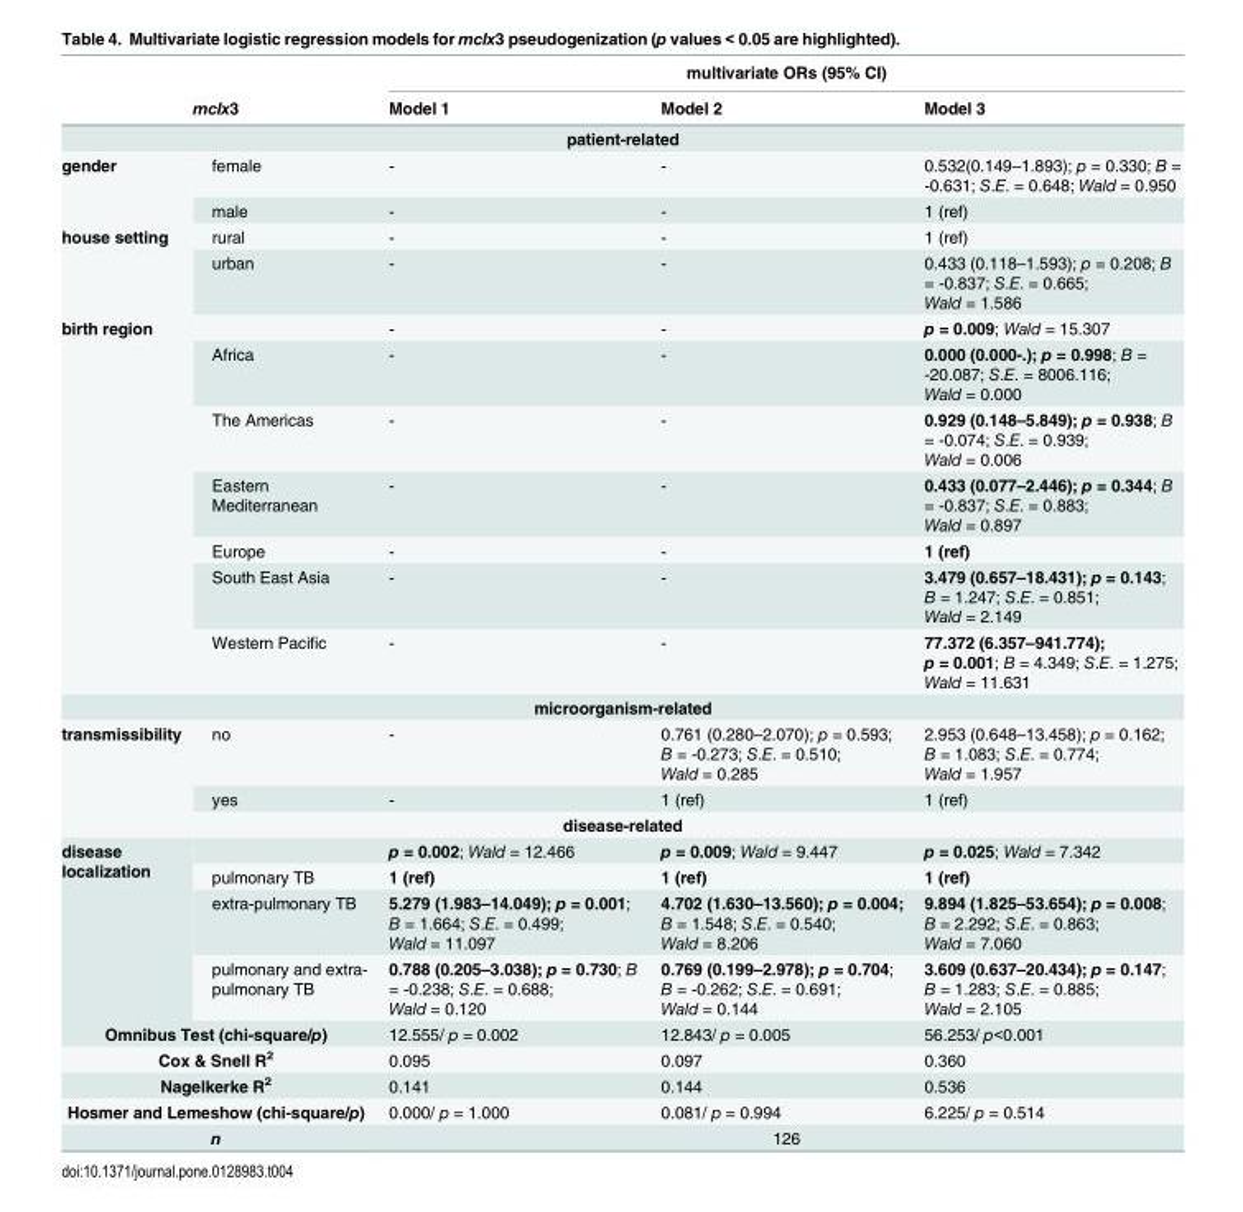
<table><thead><tr><td></td><td></td><td colspan="3">multivariate ORs (95% CI)</td></tr><tr><td colspan="2">mclx3</td><td>Model 1</td><td>Model 2</td><td>Model 3</td></tr></thead><tbody><tr><td colspan="5">patient-related</td></tr><tr><td rowspan="2">gender</td><td>female</td><td>-</td><td>-</td><td>0.532(0.149–1.893); p = 0.330; B = -0.631; S.E. = 0.648; Wald = 0.950</td></tr><tr><td>male</td><td>-</td><td>-</td><td>1 (ref)</td></tr><tr><td rowspan="2">house setting</td><td>rural</td><td>-</td><td>-</td><td>1 (ref)</td></tr><tr><td>urban</td><td>-</td><td>-</td><td>0.433 (0.118–1.593); p = 0.208; B = -0.837; S.E. = 0.665; Wald = 1.586</td></tr><tr><td rowspan="7">birth region</td><td></td><td>-</td><td>-</td><td>p = 0.009; Wald = 15.307</td></tr><tr><td>Africa</td><td>-</td><td>-</td><td>0.000 (0.000-.); p = 0.998; B = -20.087; S.E. = 8006.116; Wald = 0.000</td></tr><tr><td>The Americas</td><td>-</td><td>-</td><td>0.929 (0.148–5.849); p = 0.938; B = -0.074; S.E. = 0.939; Wald = 0.006</td></tr><tr><td>Eastern Mediterranean</td><td>-</td><td>-</td><td>0.433 (0.077–2.446); p = 0.344; B = -0.837; S.E. = 0.883; Wald = 0.897</td></tr><tr><td>Europe</td><td>-</td><td>-</td><td>1 (ref)</td></tr><tr><td>South East Asia</td><td>-</td><td>-</td><td>3.479 (0.657–18.431); p = 0.143; B = 1.247; S.E. = 0.851; Wald = 2.149</td></tr><tr><td>Western Pacific</td><td>-</td><td>-</td><td>77.372 (6.357–941.774); p = 0.001; B = 4.349; S.E. = 1.275; Wald = 11.631</td></tr><tr><td colspan="5">microorganism-related</td></tr><tr><td rowspan="2">transmissibility</td><td>no</td><td>-</td><td>0.761 (0.280–2.070); p = 0.593; B = -0.273; S.E. = 0.510; Wald = 0.285</td><td>2.953 (0.648–13.458); p = 0.162; B = 1.083; S.E. = 0.774; Wald = 1.957</td></tr><tr><td>yes</td><td>-</td><td>1 (ref)</td><td>1 (ref)</td></tr><tr><td colspan="5">disease-related</td></tr><tr><td rowspan="4">disease localization</td><td></td><td>p = 0.002; Wald = 12.466</td><td>p = 0.009; Wald = 9.447</td><td>p = 0.025; Wald = 7.342</td></tr><tr><td>pulmonary TB</td><td>1 (ref)</td><td>1 (ref)</td><td>1 (ref)</td></tr><tr><td>extra-pulmonary TB</td><td>5.279 (1.983–14.049); p = 0.001; B = 1.664; S.E. = 0.499; Wald = 11.097</td><td>4.702 (1.630–13.560); p = 0.004; B = 1.548; S.E. = 0.540; Wald = 8.206</td><td>9.894 (1.825–53.654); p = 0.008; B = 2.292; S.E. = 0.863; Wald = 7.060</td></tr><tr><td>pulmonary and extra- pulmonary TB</td><td>0.788 (0.205–3.038); p = 0.730; B = -0.238; S.E. = 0.688; Wald = 0.120</td><td>0.769 (0.199–2.978); p = 0.704; B = -0.262; S.E. = 0.691; Wald = 0.144</td><td>3.609 (0.637–20.434); p = 0.147; B = 1.283; S.E. = 0.885; Wald = 2.105</td></tr><tr><td colspan="2">Omnibus Test (chi-square/p)</td><td>12.555/ p = 0.002</td><td>12.843/ p = 0.005</td><td>56.253/ p&lt;0.001</td></tr><tr><td colspan="2">Cox &amp; Snell R<sup>2</sup></td><td>0.095</td><td>0.097</td><td>0.360</td></tr><tr><td colspan="2">Nagelkerke R<sup>2</sup></td><td>0.141</td><td>0.144</td><td>0.536</td></tr><tr><td colspan="2">Hosmer and Lemeshow (chi-square/p)</td><td>0.000/ p = 1.000</td><td>0.081/ p = 0.994</td><td>6.225/ p = 0.514</td></tr><tr><td colspan="2">n</td><td colspan="3">126</td></tr></tbody></table>